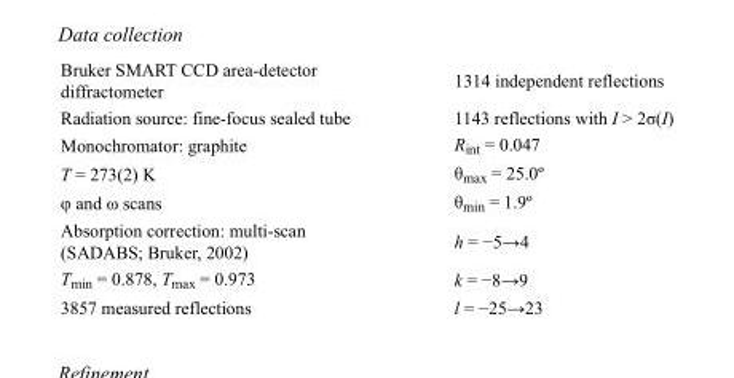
<table><tbody><tr><td>Bruker SMART CCD area-detector diffractometer</td><td>1314 independent reflections</td></tr><tr><td>Radiation source: fine-focus sealed tube</td><td>1143 reflections with I &gt; 2σ(I)</td></tr><tr><td>Monochromator: graphite</td><td>R<sub>int</sub> = 0.047</td></tr><tr><td>T = 273(2) K</td><td>θ<sub>max</sub> = 25.0º</td></tr><tr><td>φ and ω scans</td><td>θ<sub>min</sub> = 1.9º</td></tr><tr><td>Absorption correction: multi-scan (SADABS; Bruker, 2002)</td><td>h = −5→4</td></tr><tr><td>T<sub>min</sub> = 0.878, T<sub>max</sub> = 0.973</td><td>k = −8→9</td></tr><tr><td>3857 measured reflections</td><td>l = −25→23</td></tr></tbody></table>